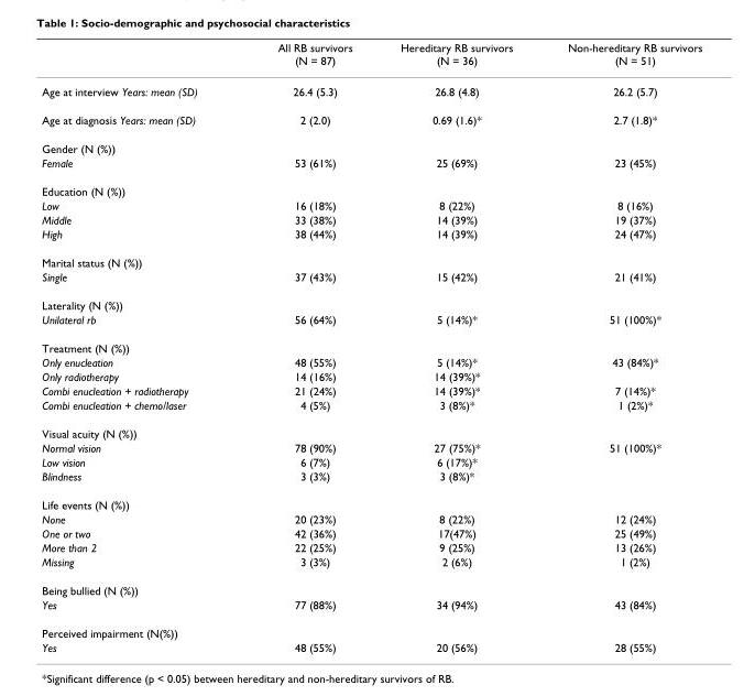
<table><thead><tr><td></td><td>All RB survivors (N = 87)</td><td>Hereditary RB survivors (N = 36)</td><td>Non-hereditary RB survivors (N = 51)</td></tr></thead><tbody><tr><td>Age at interview Years: mean (SD)</td><td>26.4 (5.3)</td><td>26.8 (4.8)</td><td>26.2 (5.7)</td></tr><tr><td>Age at diagnosis Years: mean (SD)</td><td>2 (2.0)</td><td>0.69 (1.6)*</td><td>2.7 (1.8)*</td></tr><tr><td colspan="4">Gender (N (%))</td></tr><tr><td>Female</td><td>53 (61%)</td><td>25 (69%)</td><td>23 (45%)</td></tr><tr><td colspan="4">Education (N (%))</td></tr><tr><td>Low</td><td>16 (18%)</td><td>8 (22%)</td><td>8 (16%)</td></tr><tr><td>Middle</td><td>33 (38%)</td><td>14 (39%)</td><td>19 (37%)</td></tr><tr><td>High</td><td>38 (44%)</td><td>14 (39%)</td><td>24 (47%)</td></tr><tr><td colspan="4">Marital status (N (%))</td></tr><tr><td>Single</td><td>37 (43%)</td><td>15 (42%)</td><td>21 (41%)</td></tr><tr><td colspan="4">Laterality (N (%))</td></tr><tr><td>Unilateral rb</td><td>56 (64%)</td><td>5 (14%)*</td><td>51 (100%)*</td></tr><tr><td colspan="4">Treatment (N (%))</td></tr><tr><td>Only enucleation</td><td>48 (55%)</td><td>5 (14%)*</td><td>43 (84%)*</td></tr><tr><td>Only radiotherapy</td><td>14 (16%)</td><td>14 (39%)*</td><td></td></tr><tr><td>Combi enucleation + radiotherapy</td><td>21 (24%)</td><td>14 (39%)*</td><td>7 (14%)*</td></tr><tr><td>Combi enucleation + chemo/laser</td><td>4 (5%)</td><td>3 (8%)*</td><td>1 (2%)*</td></tr><tr><td colspan="4">Visual acuity (N (%))</td></tr><tr><td>Normal vision</td><td>78 (90%)</td><td>27 (75%)*</td><td>51 (100%)*</td></tr><tr><td>Low vision</td><td>6 (7%)</td><td>6 (17%)*</td><td></td></tr><tr><td>Blindness</td><td>3 (3%)</td><td>3 (8%)*</td><td></td></tr><tr><td colspan="4">Life events (N (%))</td></tr><tr><td>None</td><td>20 (23%)</td><td>8 (22%)</td><td>12 (24%)</td></tr><tr><td>One or two</td><td>42 (36%)</td><td>17(47%)</td><td>25 (49%)</td></tr><tr><td>More than 2</td><td>22 (25%)</td><td>9 (25%)</td><td>13 (26%)</td></tr><tr><td>Missing</td><td>3 (3%)</td><td>2 (6%)</td><td>1 (2%)</td></tr><tr><td colspan="4">Being bullied (N (%))</td></tr><tr><td>Yes</td><td>77 (88%)</td><td>34 (94%)</td><td>43 (84%)</td></tr><tr><td colspan="4">Perceived impairment (N(%))</td></tr><tr><td>Yes</td><td>48 (55%)</td><td>20 (56%)</td><td>28 (55%)</td></tr></tbody></table>